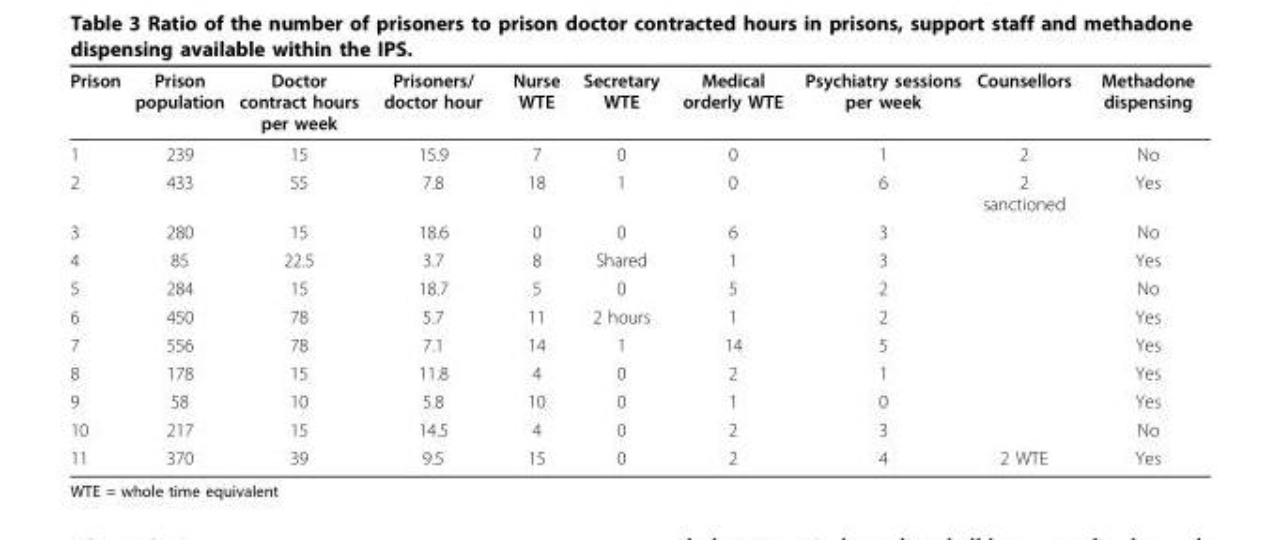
<table><thead><tr><td>Prison</td><td>Prison population</td><td>Doctor contract hours per week</td><td>Prisoners/ doctor hour</td><td>Nurse WTE</td><td>Secretary WTE</td><td>Medical orderly WTE</td><td>Psychiatry sessions per week</td><td>Counsellors</td><td>Methadone dispensing</td></tr></thead><tbody><tr><td>1</td><td>239</td><td>15</td><td>15.9</td><td>7</td><td>0</td><td>0</td><td>1</td><td>2</td><td>No</td></tr><tr><td>2</td><td>433</td><td>55</td><td>7.8</td><td>18</td><td>1</td><td>0</td><td>6</td><td>2 sanctioned</td><td>Yes</td></tr><tr><td>3</td><td>280</td><td>15</td><td>18.6</td><td>0</td><td>0</td><td>6</td><td>3</td><td></td><td>No</td></tr><tr><td>4</td><td>85</td><td>22.5</td><td>3.7</td><td>8</td><td>Shared</td><td>1</td><td>3</td><td></td><td>Yes</td></tr><tr><td>5</td><td>284</td><td>15</td><td>18.7</td><td>5</td><td>0</td><td>5</td><td>2</td><td></td><td>No</td></tr><tr><td>6</td><td>450</td><td>78</td><td>5.7</td><td>11</td><td>2 hours</td><td>1</td><td>2</td><td></td><td>Yes</td></tr><tr><td>7</td><td>556</td><td>78</td><td>7.1</td><td>14</td><td>1</td><td>14</td><td>5</td><td></td><td>Yes</td></tr><tr><td>8</td><td>178</td><td>15</td><td>11.8</td><td>4</td><td>0</td><td>2</td><td>1</td><td></td><td>Yes</td></tr><tr><td>9</td><td>58</td><td>10</td><td>5.8</td><td>10</td><td>0</td><td>1</td><td>0</td><td></td><td>Yes</td></tr><tr><td>10</td><td>217</td><td>15</td><td>14.5</td><td>4</td><td>0</td><td>2</td><td>3</td><td></td><td>No</td></tr><tr><td>11</td><td>370</td><td>39</td><td>9.5</td><td>15</td><td>0</td><td>2</td><td>4</td><td>2 WTE</td><td>Yes</td></tr></tbody></table>